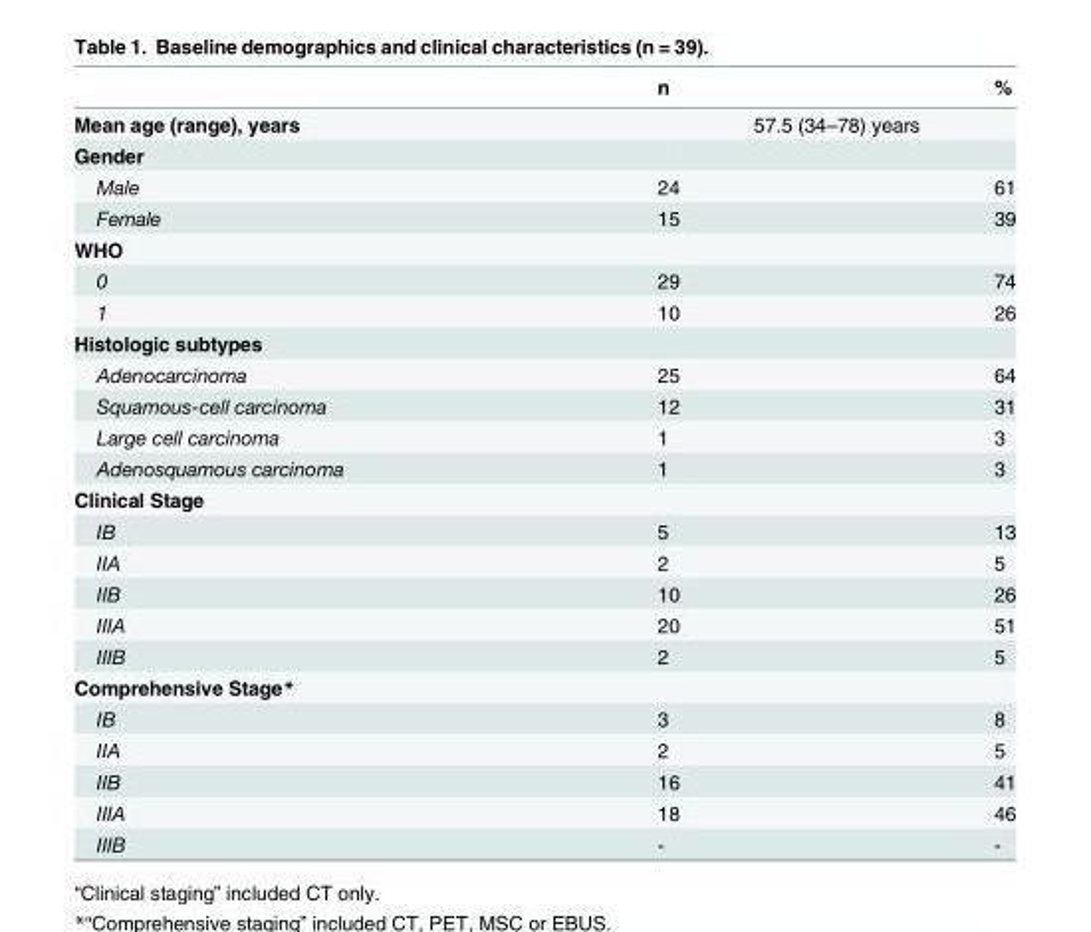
<table><thead><tr><td></td><td>n</td><td>%</td></tr></thead><tbody><tr><td>Mean age (range), years</td><td colspan="2">57.5 (34–78) years</td></tr><tr><td colspan="3">Gender</td></tr><tr><td>Male</td><td>24</td><td>61</td></tr><tr><td>Female</td><td>15</td><td>39</td></tr><tr><td colspan="3">WHO</td></tr><tr><td>0</td><td>29</td><td>74</td></tr><tr><td>1</td><td>10</td><td>26</td></tr><tr><td colspan="3">Histologic subtypes</td></tr><tr><td>Adenocarcinoma</td><td>25</td><td>64</td></tr><tr><td>Squamous-cell carcinoma</td><td>12</td><td>31</td></tr><tr><td>Large cell carcinoma</td><td>1</td><td>3</td></tr><tr><td>Adenosquamous carcinoma</td><td>1</td><td>3</td></tr><tr><td colspan="3">Clinical Stage</td></tr><tr><td>IB</td><td>5</td><td>13</td></tr><tr><td>IIA</td><td>2</td><td>5</td></tr><tr><td>IIB</td><td>10</td><td>26</td></tr><tr><td>IIIA</td><td>20</td><td>51</td></tr><tr><td>IIIB</td><td>2</td><td>5</td></tr><tr><td colspan="3">Comprehensive Stage*</td></tr><tr><td>IB</td><td>3</td><td>8</td></tr><tr><td>IIA</td><td>2</td><td>5</td></tr><tr><td>IIB</td><td>16</td><td>41</td></tr><tr><td>IIIA</td><td>18</td><td>46</td></tr><tr><td>IIIB</td><td>-</td><td>-</td></tr></tbody></table>